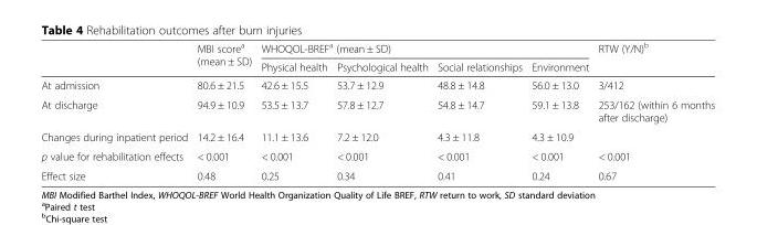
<table><thead><tr><td rowspan="2"></td><td rowspan="2">MBI score<sup>a</sup> (mean ± SD)</td><td colspan="4">WHOQOL-BREF<sup>a</sup> (mean ± SD)</td><td rowspan="2">RTW (Y/N)<sup>b</sup></td></tr><tr><td>Physical health</td><td>Psychological health</td><td>Social relationships</td><td>Environment</td></tr></thead><tbody><tr><td>At admission</td><td>80.6 ± 21.5</td><td>42.6 ± 15.5</td><td>53.7 ± 12.9</td><td>48.8 ± 14.8</td><td>56.0 ± 13.0</td><td>3/412</td></tr><tr><td>At discharge</td><td>94.9 ± 10.9</td><td>53.5 ± 13.7</td><td>57.8 ± 12.7</td><td>54.8 ± 14.7</td><td>59.1 ± 13.8</td><td>253/162 (within 6 months after discharge)</td></tr><tr><td>Changes during inpatient period</td><td>14.2 ± 16.4</td><td>11.1 ± 13.6</td><td>7.2 ± 12.0</td><td>4.3 ± 11.8</td><td>4.3 ± 10.9</td><td></td></tr><tr><td>p value for rehabilitation effects</td><td>&lt; 0.001</td><td>&lt; 0.001</td><td>&lt; 0.001</td><td>&lt; 0.001</td><td>&lt; 0.001</td><td>&lt; 0.001</td></tr><tr><td>Effect size</td><td>0.48</td><td>0.25</td><td>0.34</td><td>0.41</td><td>0.24</td><td>0.67</td></tr></tbody></table>